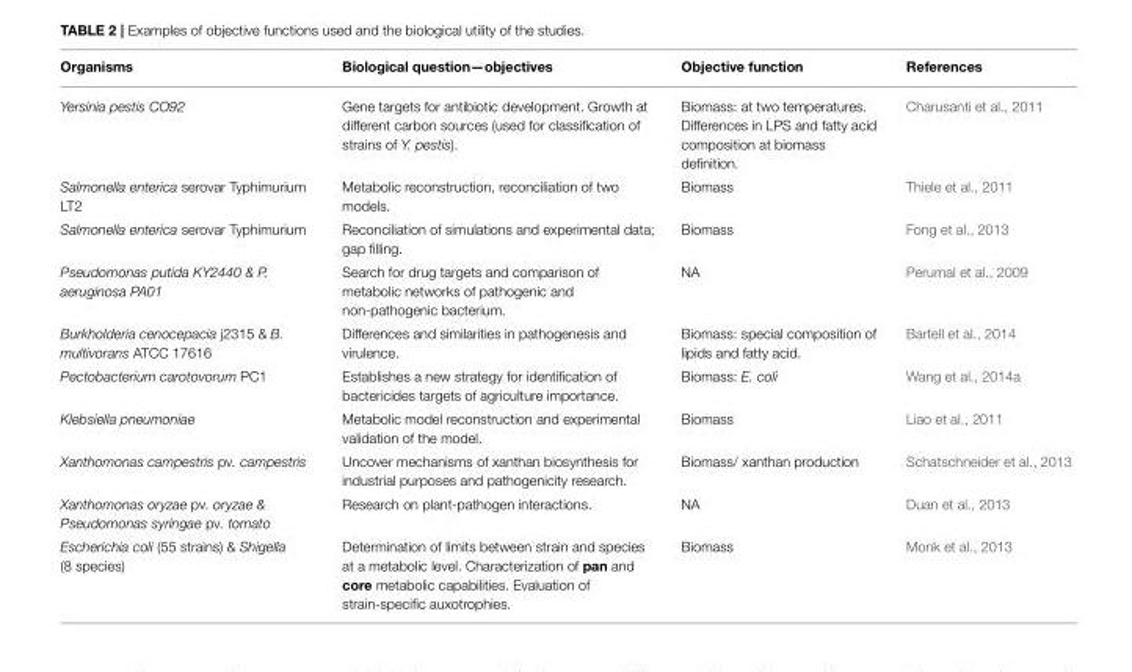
<table><thead><tr><td>Organisms</td><td>Biological question—objectives</td><td>Objective function</td><td>References</td></tr></thead><tbody><tr><td>Yersinia pestis CO92</td><td>Gene targets for antibiotic development. Growth at different carbon sources (used for classification of strains of Y. pestis).</td><td>Biomass: at two temperatures. Differences in LPS and fatty acid composition at biomass definition.</td><td>Charusanti et al., 2011</td></tr><tr><td>Salmonella enterica serovar Typhimurium LT2</td><td>Metabolic reconstruction, reconciliation of two models.</td><td>Biomass</td><td>Thiele et al., 2011</td></tr><tr><td>Salmonella enterica serovar Typhimurium</td><td>Reconciliation of simulations and experimental data; gap filling.</td><td>Biomass</td><td>Fong et al., 2013</td></tr><tr><td>Pseudomonas putida KY2440 &amp; P. aeruginosa PA01</td><td>Search for drug targets and comparison of metabolic networks of pathogenic and non-pathogenic bacterium.</td><td>NA</td><td>Perumal et al., 2009</td></tr><tr><td>Burkholderia cenocepacia j2315 &amp; B. multivorans ATCC 17616</td><td>Differences and similarities in pathogenesis and virulence.</td><td>Biomass: special composition of lipids and fatty acid.</td><td>Bartell et al., 2014</td></tr><tr><td>Pectobacterium carotovorum PC1</td><td>Establishes a new strategy for identification of bactericides targets of agriculture importance.</td><td>Biomass: E. coli</td><td>Wang et al., 2014a</td></tr><tr><td>Klebsiella pneumoniae</td><td>Metabolic model reconstruction and experimental validation of the model.</td><td>Biomass</td><td>Liao et al., 2011</td></tr><tr><td>Xanthomonas campestris pv. campestris</td><td>Uncover mechanisms of xanthan biosynthesis for industrial purposes and pathogenicity research.</td><td>Biomass/ xanthan production</td><td>Schatschneider et al., 2013</td></tr><tr><td>Xanthomonas oryzae pv. oryzae &amp; Pseudomonas syringae pv. tomato</td><td>Research on plant-pathogen interactions.</td><td>NA</td><td>Duan et al., 2013</td></tr><tr><td>Escherichia coli (55 strains) &amp; Shigella (8 species)</td><td>Determination of limits between strain and species at a metabolic level. Characterization of pan and core metabolic capabilities. Evaluation of strain-specific auxotrophies.</td><td>Biomass</td><td>Monk et al., 2013</td></tr></tbody></table>